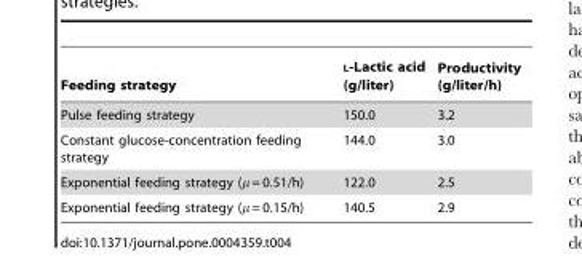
<table><thead><tr><td>Feeding strategy</td><td>L-Lactic acid (g/liter)</td><td>Productivity (g/liter/h)</td></tr></thead><tbody><tr><td>Pulse feeding strategy</td><td>150.0</td><td>3.2</td></tr><tr><td>Constant glucose-concentration feeding strategy</td><td>144.0</td><td>3.0</td></tr><tr><td>Exponential feeding strategy (μ = 0.51/h)</td><td>122.0</td><td>2.5</td></tr><tr><td>Exponential feeding strategy (μ = 0.15/h)</td><td>140.5</td><td>2.9</td></tr></tbody></table>